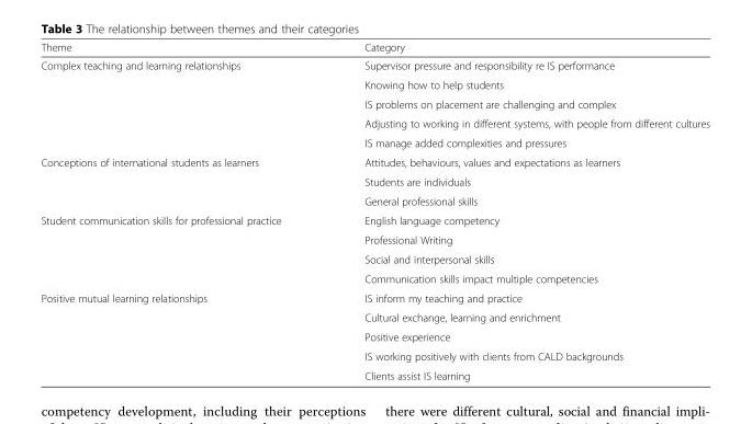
<table><thead><tr><td>Theme</td><td>Category</td></tr></thead><tbody><tr><td rowspan="5">Complex teaching and learning relationships</td><td>Supervisor pressure and responsibility re IS performance</td></tr><tr><td>Knowing how to help students</td></tr><tr><td>IS problems on placement are challenging and complex</td></tr><tr><td>Adjusting to working in different systems, with people from different cultures</td></tr><tr><td>IS manage added complexities and pressures</td></tr><tr><td rowspan="3">Conceptions of international students as learners</td><td>Attitudes, behaviours, values and expectations as learners</td></tr><tr><td>Students are individuals</td></tr><tr><td>General professional skills</td></tr><tr><td rowspan="4">Student communication skills for professional practice</td><td>English language competency</td></tr><tr><td>Professional Writing</td></tr><tr><td>Social and interpersonal skills</td></tr><tr><td>Communication skills impact multiple competencies</td></tr><tr><td rowspan="5">Positive mutual learning relationships</td><td>IS inform my teaching and practice</td></tr><tr><td>Cultural exchange, learning and enrichment</td></tr><tr><td>Positive experience</td></tr><tr><td>IS working positively with clients from CALD backgrounds</td></tr><tr><td>Clients assist IS learning</td></tr></tbody></table>